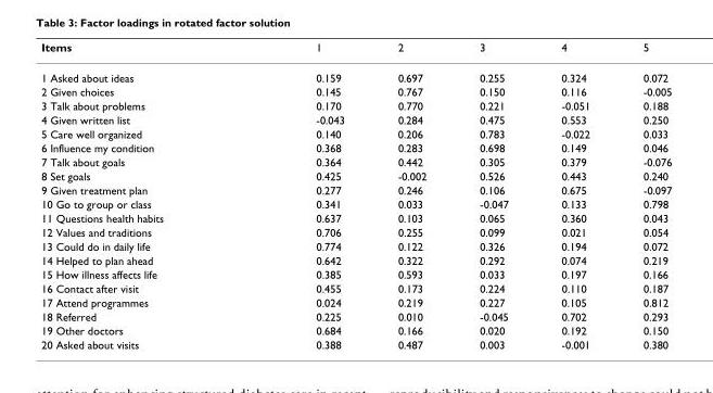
<table><thead><tr><td>Items</td><td>1</td><td>2</td><td>3</td><td>4</td><td>5</td></tr></thead><tbody><tr><td>1 Asked about ideas</td><td>0.159</td><td>0.697</td><td>0.255</td><td>0.324</td><td>0.072</td></tr><tr><td>2 Given choices</td><td>0.145</td><td>0.767</td><td>0.150</td><td>0.116</td><td>-0.005</td></tr><tr><td>3 Talk about problems</td><td>0.170</td><td>0.770</td><td>0.221</td><td>-0.051</td><td>0.188</td></tr><tr><td>4 Given written list</td><td>-0.043</td><td>0.284</td><td>0.475</td><td>0.553</td><td>0.250</td></tr><tr><td>5 Care well organized</td><td>0.140</td><td>0.206</td><td>0.783</td><td>-0.022</td><td>0.033</td></tr><tr><td>6 Influence my condition</td><td>0.368</td><td>0.283</td><td>0.698</td><td>0.149</td><td>0.046</td></tr><tr><td>7 Talk about goals</td><td>0.364</td><td>0.442</td><td>0.305</td><td>0.379</td><td>-0.076</td></tr><tr><td>8 Set goals</td><td>0.425</td><td>-0.002</td><td>0.526</td><td>0.443</td><td>0.240</td></tr><tr><td>9 Given treatment plan</td><td>0.277</td><td>0.246</td><td>0.106</td><td>0.675</td><td>-0.097</td></tr><tr><td>10 Go to group or class</td><td>0.341</td><td>0.033</td><td>-0.047</td><td>0.133</td><td>0.798</td></tr><tr><td>11 Questions health habits</td><td>0.637</td><td>0.103</td><td>0.065</td><td>0.360</td><td>0.043</td></tr><tr><td>12 Values and traditions</td><td>0.706</td><td>0.255</td><td>0.099</td><td>0.021</td><td>0.054</td></tr><tr><td>13 Could do in daily life</td><td>0.774</td><td>0.122</td><td>0.326</td><td>0.194</td><td>0.072</td></tr><tr><td>14 Helped to plan ahead</td><td>0.642</td><td>0.322</td><td>0.292</td><td>0.074</td><td>0.219</td></tr><tr><td>15 How illness affects life</td><td>0.385</td><td>0.593</td><td>0.033</td><td>0.197</td><td>0.166</td></tr><tr><td>16 Contact after visit</td><td>0.455</td><td>0.173</td><td>0.224</td><td>0.110</td><td>0.187</td></tr><tr><td>17 Attend programmes</td><td>0.024</td><td>0.219</td><td>0.227</td><td>0.105</td><td>0.812</td></tr><tr><td>18 Referred</td><td>0.225</td><td>0.010</td><td>-0.045</td><td>0.702</td><td>0.293</td></tr><tr><td>19 Other doctors</td><td>0.684</td><td>0.166</td><td>0.020</td><td>0.192</td><td>0.150</td></tr><tr><td>20 Asked about visits</td><td>0.388</td><td>0.487</td><td>0.003</td><td>-0.001</td><td>0.380</td></tr></tbody></table>